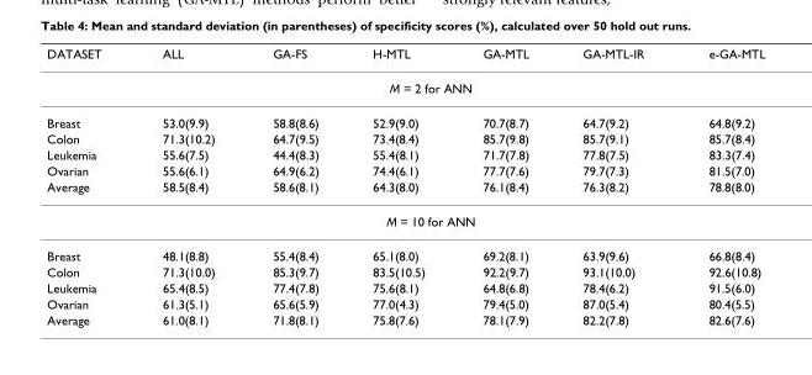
<table><thead><tr><td>DATASET</td><td>ALL</td><td>GA-FS</td><td>H-MTL</td><td>GA-MTL</td><td>GA-MTL-IR</td><td>e-GA-MTL</td></tr></thead><tbody><tr><td colspan="7">M = 2 for ANN</td></tr><tr><td>Breast</td><td>53.0(9.9)</td><td>58.8(8.6)</td><td>52.9(9.0)</td><td>70.7(8.7)</td><td>64.7(9.2)</td><td>64.8(9.2)</td></tr><tr><td>Colon</td><td>71.3(10.2)</td><td>64.7(9.5)</td><td>73.4(8.4)</td><td>85.7(9.8)</td><td>85.7(9.1)</td><td>85.7(8.4)</td></tr><tr><td>Leukemia</td><td>55.6(7.5)</td><td>44.4(8.3)</td><td>55.4(8.1)</td><td>71.7(7.8)</td><td>77.8(7.5)</td><td>83.3(7.4)</td></tr><tr><td>Ovarian</td><td>55.6(6.1)</td><td>64.9(6.2)</td><td>74.4(6.1)</td><td>77.7(7.6)</td><td>79.7(7.3)</td><td>81.5(7.0)</td></tr><tr><td>Average</td><td>58.5(8.4)</td><td>58.6(8.1)</td><td>64.3(8.0)</td><td>76.1(8.4)</td><td>76.3(8.2)</td><td>78.8(8.0)</td></tr><tr><td colspan="7">M = 10 for ANN</td></tr><tr><td>Breast</td><td>48.1(8.8)</td><td>55.4(8.4)</td><td>65.1(8.0)</td><td>69.2(8.1)</td><td>63.9(9.6)</td><td>66.8(8.4)</td></tr><tr><td>Colon</td><td>71.3(10.0)</td><td>85.3(9.7)</td><td>83.5(10.5)</td><td>92.2(9.7)</td><td>93.1(10.0)</td><td>92.6(10.8)</td></tr><tr><td>Leukemia</td><td>65.4(8.5)</td><td>77.4(7.8)</td><td>75.6(8.1)</td><td>64.8(6.8)</td><td>78.4(6.2)</td><td>91.5(6.0)</td></tr><tr><td>Ovarian</td><td>61.3(5.1)</td><td>65.6(5.9)</td><td>77.0(4.3)</td><td>79.4(5.0)</td><td>87.0(5.4)</td><td>80.4(5.5)</td></tr><tr><td>Average</td><td>61.0(8.1)</td><td>71.8(8.1)</td><td>75.8(7.6)</td><td>78.1(7.9)</td><td>82.2(7.8)</td><td>82.6(7.6)</td></tr></tbody></table>